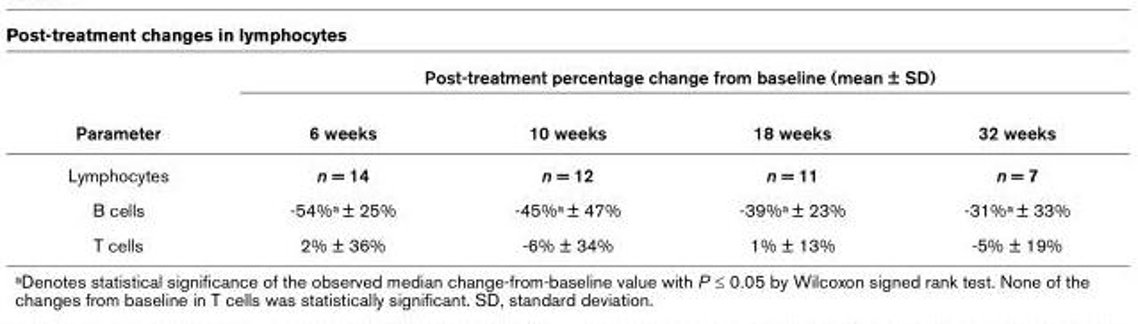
<table><thead><tr><td rowspan="2">Parameter</td><td colspan="4">Post-treatment percentage change from baseline (mean ± SD)</td></tr><tr><td>6 weeks</td><td>10 weeks</td><td>18 weeks</td><td>32 weeks</td></tr></thead><tbody><tr><td>Lymphocytes</td><td>n = 14</td><td>n = 12</td><td>n = 11</td><td>n = 7</td></tr><tr><td>B cells</td><td>-54%a ± 25%</td><td>-45%a ± 47%</td><td>-39%a ± 23%</td><td>-31%a ± 33%</td></tr><tr><td>T cells</td><td>2% ± 36%</td><td>-6% ± 34%</td><td>1% ± 13%</td><td>-5% ± 19%</td></tr></tbody></table>